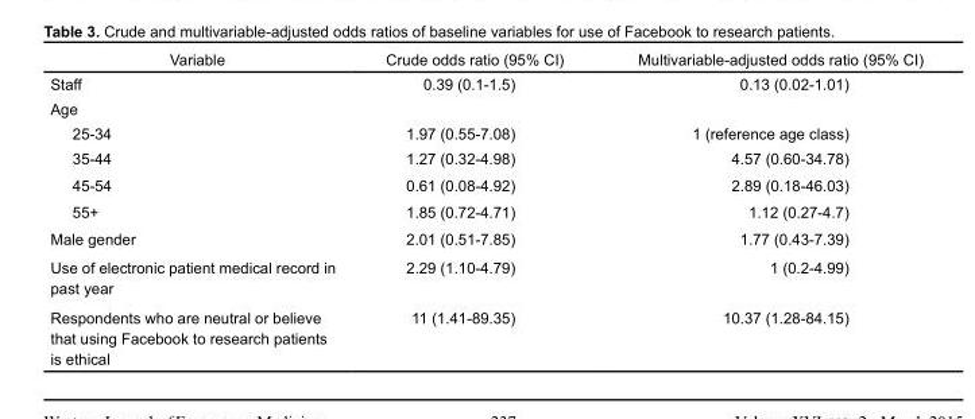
<table><thead><tr><td>Variable</td><td>Crude odds ratio (95% CI)</td><td>Multivariable-adjusted odds ratio (95% CI)</td></tr></thead><tbody><tr><td>Staff</td><td>0.39 (0.1-1.5)</td><td>0.13 (0.02-1.01)</td></tr><tr><td colspan="3">Age</td></tr><tr><td>25-34</td><td>1.97 (0.55-7.08)</td><td>1 (reference age class)</td></tr><tr><td>35-44</td><td>1.27 (0.32-4.98)</td><td>4.57 (0.60-34.78)</td></tr><tr><td>45-54</td><td>0.61 (0.08-4.92)</td><td>2.89 (0.18-46.03)</td></tr><tr><td>55+</td><td>1.85 (0.72-4.71)</td><td>1.12 (0.27-4.7)</td></tr><tr><td>Male gender</td><td>2.01 (0.51-7.85)</td><td>1.77 (0.43-7.39)</td></tr><tr><td>Use of electronic patient medical record in past year</td><td>2.29 (1.10-4.79)</td><td>1 (0.2-4.99)</td></tr><tr><td>Respondents who are neutral or believe that using Facebook to research patients is ethical</td><td>11 (1.41-89.35)</td><td>10.37 (1.28-84.15)</td></tr></tbody></table>